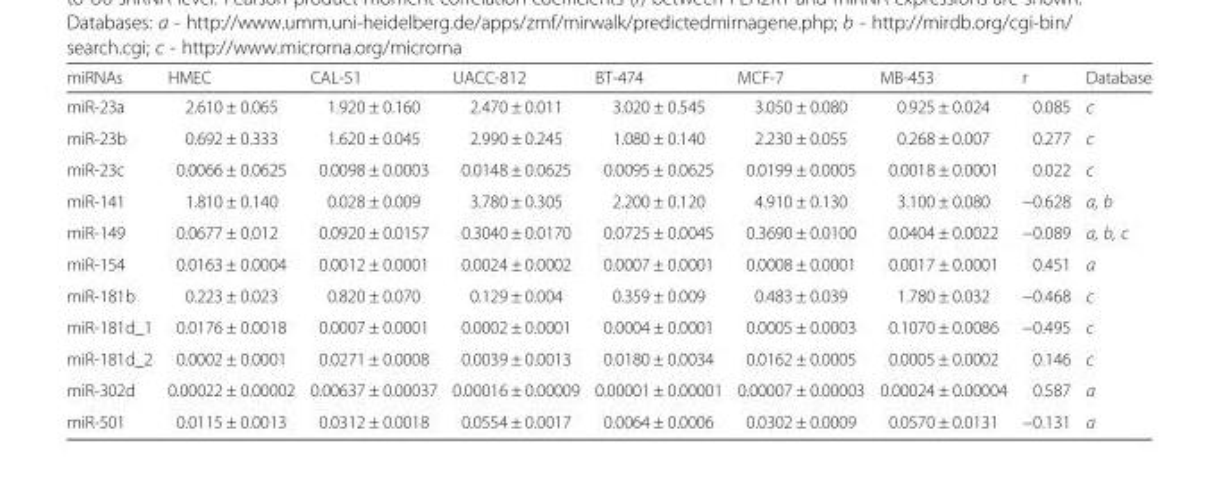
<table><thead><tr><td>miRNAs</td><td>HMEC</td><td>CAL-51</td><td>UACC-812</td><td>BT-474</td><td>MCF-7</td><td>MB-453</td><td>r</td><td>Database</td></tr></thead><tbody><tr><td>miR-23a</td><td>2.610 ± 0.065</td><td>1.920 ± 0.160</td><td>2.470 ± 0.011</td><td>3.020 ± 0.545</td><td>3.050 ± 0.080</td><td>0.925 ± 0.024</td><td>0.085</td><td>c</td></tr><tr><td>miR-23b</td><td>0.692 ± 0.333</td><td>1.620 ± 0.045</td><td>2.990 ± 0.245</td><td>1.080 ± 0.140</td><td>2.230 ± 0.055</td><td>0.268 ± 0.007</td><td>0.277</td><td>c</td></tr><tr><td>miR-23c</td><td>0.0066 ± 0.0625</td><td>0.0098 ± 0.0003</td><td>0.0148 ± 0.0625</td><td>0.0095 ± 0.0625</td><td>0.0199 ± 0.0005</td><td>0.0018 ± 0.0001</td><td>0.022</td><td>c</td></tr><tr><td>miR-141</td><td>1.810 ± 0.140</td><td>0.028 ± 0.009</td><td>3.780 ± 0.305</td><td>2.200 ± 0.120</td><td>4.910 ± 0.130</td><td>3.100 ± 0.080</td><td>−0.628</td><td>a, b</td></tr><tr><td>miR-149</td><td>0.0677 ± 0.012</td><td>0.0920 ± 0.0157</td><td>0.3040 ± 0.0170</td><td>0.0725 ± 0.0045</td><td>0.3690 ± 0.0100</td><td>0.0404 ± 0.0022</td><td>−0.089</td><td>a, b, c</td></tr><tr><td>miR-154</td><td>0.0163 ± 0.0004</td><td>0.0012 ± 0.0001</td><td>0.0024 ± 0.0002</td><td>0.0007 ± 0.0001</td><td>0.0008 ± 0.0001</td><td>0.0017 ± 0.0001</td><td>0.451</td><td>a</td></tr><tr><td>miR-181b</td><td>0.223 ± 0.023</td><td>0.820 ± 0.070</td><td>0.129 ± 0.004</td><td>0.359 ± 0.009</td><td>0.483 ± 0.039</td><td>1.780 ± 0.032</td><td>−0.468</td><td>c</td></tr><tr><td>miR-181d_1</td><td>0.0176 ± 0.0018</td><td>0.0007 ± 0.0001</td><td>0.0002 ± 0.0001</td><td>0.0004 ± 0.0001</td><td>0.0005 ± 0.0003</td><td>0.1070 ± 0.0086</td><td>−0.495</td><td>c</td></tr><tr><td>miR-181d_2</td><td>0.0002 ± 0.0001</td><td>0.0271 ± 0.0008</td><td>0.0039 ± 0.0013</td><td>0.0180 ± 0.0034</td><td>0.0162 ± 0.0005</td><td>0.0005 ± 0.0002</td><td>0.146</td><td>c</td></tr><tr><td>miR-302d</td><td>0.00022 ± 0.00002</td><td>0.00637 ± 0.00037</td><td>0.00016 ± 0.00009</td><td>0.00001 ± 0.00001</td><td>0.00007 ± 0.00003</td><td>0.00024 ± 0.00004</td><td>0.587</td><td>a</td></tr><tr><td>miR-501</td><td>0.0115 ± 0.0013</td><td>0.0312 ± 0.0018</td><td>0.0554 ± 0.0017</td><td>0.0064 ± 0.0006</td><td>0.0302 ± 0.0009</td><td>0.0570 ± 0.0131</td><td>−0.131</td><td>a</td></tr></tbody></table>